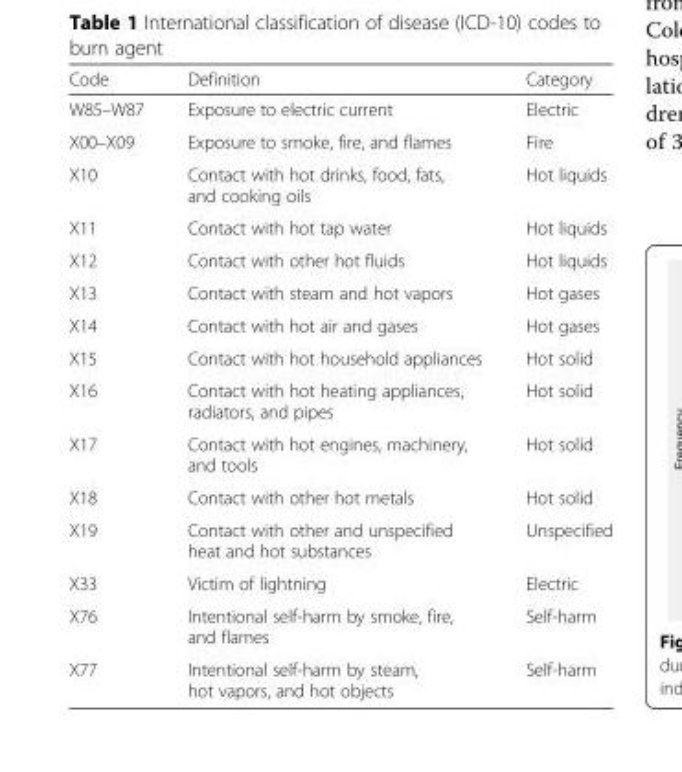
<table><thead><tr><td>Code</td><td>Definition</td><td>Category</td></tr></thead><tbody><tr><td>W85–W87</td><td>Exposure to electric current</td><td>Electric</td></tr><tr><td>X00–X09</td><td>Exposure to smoke, fire, and flames</td><td>Fire</td></tr><tr><td>X10</td><td>Contact with hot drinks, food, fats, and cooking oils</td><td>Hot liquids</td></tr><tr><td>X11</td><td>Contact with hot tap water</td><td>Hot liquids</td></tr><tr><td>X12</td><td>Contact with other hot fluids</td><td>Hot liquids</td></tr><tr><td>X13</td><td>Contact with steam and hot vapors</td><td>Hot gases</td></tr><tr><td>X14</td><td>Contact with hot air and gases</td><td>Hot gases</td></tr><tr><td>X15</td><td>Contact with hot household appliances</td><td>Hot solid</td></tr><tr><td>X16</td><td>Contact with hot heating appliances, radiators, and pipes</td><td>Hot solid</td></tr><tr><td>X17</td><td>Contact with hot engines, machinery, and tools</td><td>Hot solid</td></tr><tr><td>X18</td><td>Contact with other hot metals</td><td>Hot solid</td></tr><tr><td>X19</td><td>Contact with other and unspecified heat and hot substances</td><td>Unspecified</td></tr><tr><td>X33</td><td>Victim of lightning</td><td>Electric</td></tr><tr><td>X76</td><td>Intentional self-harm by smoke, fire, and flames</td><td>Self-harm</td></tr><tr><td>X77</td><td>Intentional self-harm by steam, hot vapors, and hot objects</td><td>Self-harm</td></tr></tbody></table>